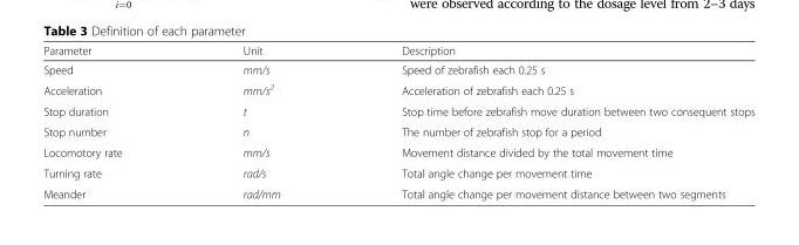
<table><thead><tr><td>Parameter</td><td>Unit</td><td>Description</td></tr></thead><tbody><tr><td>Speed</td><td>mm/s</td><td>Speed of zebrafish each 0.25 s</td></tr><tr><td>Acceleration</td><td>mm/s<sup>2</sup></td><td>Acceleration of zebrafish each 0.25 s</td></tr><tr><td>Stop duration</td><td>t</td><td>Stop time before zebrafish move duration between two consequent stops</td></tr><tr><td>Stop number</td><td>n</td><td>The number of zebrafish stop for a period</td></tr><tr><td>Locomotory rate</td><td>mm/s</td><td>Movement distance divided by the total movement time</td></tr><tr><td>Turning rate</td><td>rad/s</td><td>Total angle change per movement time</td></tr><tr><td>Meander</td><td>rad/mm</td><td>Total angle change per movement distance between two segments</td></tr></tbody></table>